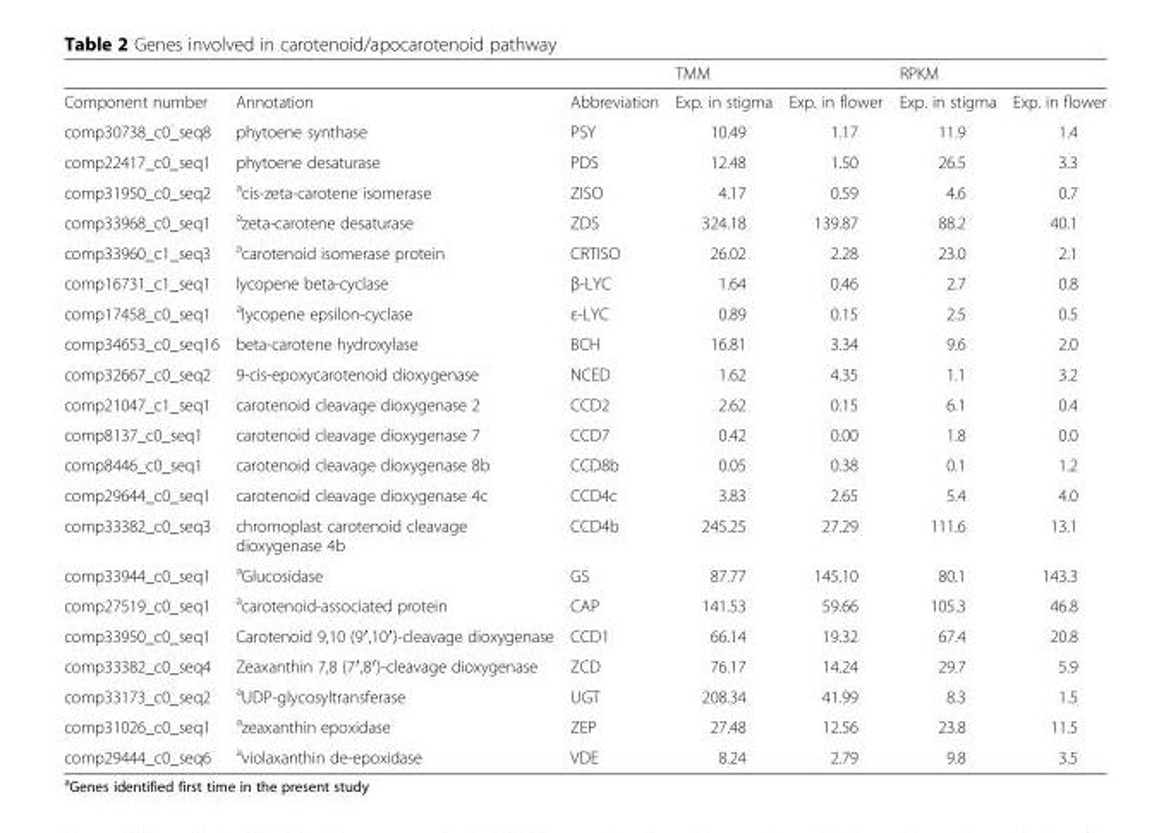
<table><thead><tr><td rowspan="2">Component number</td><td rowspan="2">Annotation</td><td rowspan="2">Abbreviation</td><td colspan="2">TMM</td><td colspan="2">RPKM</td></tr><tr><td>Exp. in stigma</td><td>Exp. in flower</td><td>Exp. in stigma</td><td>Exp. in flower</td></tr></thead><tbody><tr><td>comp30738_c0_seq8</td><td>phytoene synthase</td><td>PSY</td><td>10.49</td><td>1.17</td><td>11.9</td><td>1.4</td></tr><tr><td>comp22417_c0_seq1</td><td>phytoene desaturase</td><td>PDS</td><td>12.48</td><td>1.50</td><td>26.5</td><td>3.3</td></tr><tr><td>comp31950_c0_seq2</td><td><sup>a</sup>cis-zeta-carotene isomerase</td><td>ZISO</td><td>4.17</td><td>0.59</td><td>4.6</td><td>0.7</td></tr><tr><td>comp33968_c0_seq1</td><td><sup>a</sup>zeta-carotene desaturase</td><td>ZDS</td><td>324.18</td><td>139.87</td><td>88.2</td><td>40.1</td></tr><tr><td>comp33960_c1_seq3</td><td><sup>a</sup>carotenoid isomerase protein</td><td>CRTISO</td><td>26.02</td><td>2.28</td><td>23.0</td><td>2.1</td></tr><tr><td>comp16731_c1_seq1</td><td>lycopene beta-cyclase</td><td>β-LYC</td><td>1.64</td><td>0.46</td><td>2.7</td><td>0.8</td></tr><tr><td>comp17458_c0_seq1</td><td><sup>a</sup>lycopene epsilon-cyclase</td><td>ε-LYC</td><td>0.89</td><td>0.15</td><td>2.5</td><td>0.5</td></tr><tr><td>comp34653_c0_seq16</td><td>beta-carotene hydroxylase</td><td>BCH</td><td>16.81</td><td>3.34</td><td>9.6</td><td>2.0</td></tr><tr><td>comp32667_c0_seq2</td><td>9-cis-epoxycarotenoid dioxygenase</td><td>NCED</td><td>1.62</td><td>4.35</td><td>1.1</td><td>3.2</td></tr><tr><td>comp21047_c1_seq1</td><td>carotenoid cleavage dioxygenase 2</td><td>CCD2</td><td>2.62</td><td>0.15</td><td>6.1</td><td>0.4</td></tr><tr><td>comp8137_c0_seq1</td><td>carotenoid cleavage dioxygenase 7</td><td>CCD7</td><td>0.42</td><td>0.00</td><td>1.8</td><td>0.0</td></tr><tr><td>comp8446_c0_seq1</td><td>carotenoid cleavage dioxygenase 8b</td><td>CCD8b</td><td>0.05</td><td>0.38</td><td>0.1</td><td>1.2</td></tr><tr><td>comp29644_c0_seq1</td><td>carotenoid cleavage dioxygenase 4c</td><td>CCD4c</td><td>3.83</td><td>2.65</td><td>5.4</td><td>4.0</td></tr><tr><td>comp33382_c0_seq3</td><td>chromoplast carotenoid cleavage dioxygenase 4b</td><td>CCD4b</td><td>245.25</td><td>27.29</td><td>111.6</td><td>13.1</td></tr><tr><td>comp33944_c0_seq1</td><td><sup>a</sup>Glucosidase</td><td>GS</td><td>87.77</td><td>145.10</td><td>80.1</td><td>143.3</td></tr><tr><td>comp27519_c0_seq1</td><td><sup>a</sup>carotenoid-associated protein</td><td>CAP</td><td>141.53</td><td>59.66</td><td>105.3</td><td>46.8</td></tr><tr><td>comp33950_c0_seq1</td><td>Carotenoid 9,10 (9′,10′)-cleavage dioxygenase</td><td>CCD1</td><td>66.14</td><td>19.32</td><td>67.4</td><td>20.8</td></tr><tr><td>comp33382_c0_seq4</td><td>Zeaxanthin 7,8 (7′,8′)-cleavage dioxygenase</td><td>ZCD</td><td>76.17</td><td>14.24</td><td>29.7</td><td>5.9</td></tr><tr><td>comp33173_c0_seq2</td><td><sup>a</sup>UDP-glycosyltransferase</td><td>UGT</td><td>208.34</td><td>41.99</td><td>8.3</td><td>1.5</td></tr><tr><td>comp31026_c0_seq1</td><td><sup>a</sup>zeaxanthin epoxidase</td><td>ZEP</td><td>27.48</td><td>12.56</td><td>23.8</td><td>11.5</td></tr><tr><td>comp29444_c0_seq6</td><td><sup>a</sup>violaxanthin de-epoxidase</td><td>VDE</td><td>8.24</td><td>2.79</td><td>9.8</td><td>3.5</td></tr></tbody></table>